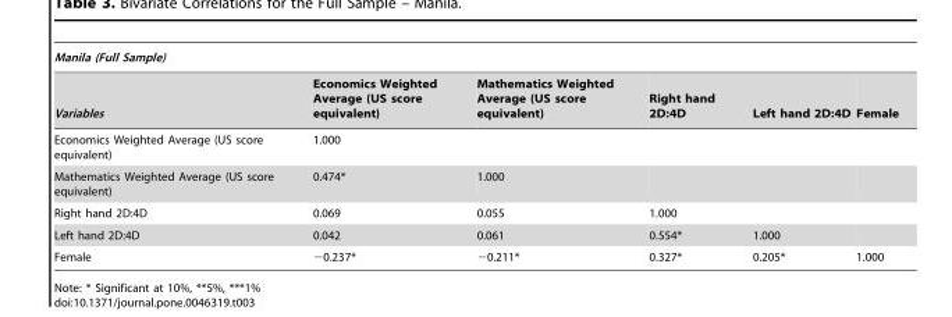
<table><thead><tr><td colspan="6">Manila (Full Sample)</td></tr><tr><td>Variables</td><td>Economics Weighted Average (US score equivalent)</td><td>Mathematics Weighted Average (US score equivalent)</td><td>Right hand 2D:4D</td><td>Left hand 2D:4D</td><td>Female</td></tr></thead><tbody><tr><td>Economics Weighted Average (US score equivalent)</td><td>1.000</td><td></td><td></td><td></td><td></td></tr><tr><td>Mathematics Weighted Average (US score equivalent)</td><td>0.474*</td><td>1.000</td><td></td><td></td><td></td></tr><tr><td>Right hand 2D:4D</td><td>0.069</td><td>0.055</td><td>1.000</td><td></td><td></td></tr><tr><td>Left hand 2D:4D</td><td>0.042</td><td>0.061</td><td>0.554*</td><td>1.000</td><td></td></tr><tr><td>Female</td><td>−0.237*</td><td>−0.211*</td><td>0.327*</td><td>0.205*</td><td>1.000</td></tr></tbody></table>